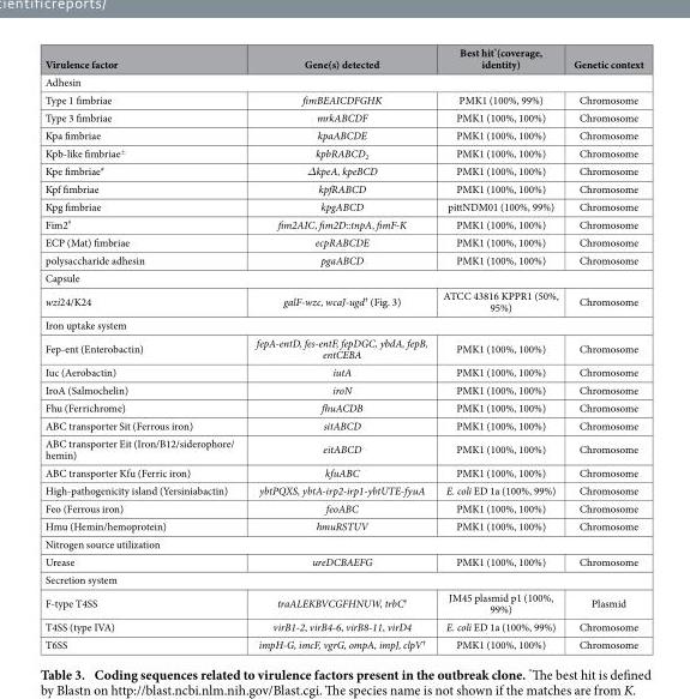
<table><thead><tr><td>Virulence factor</td><td>Gene(s) detected</td><td>Best hit*(coverage, identity)</td><td>Genetic context</td></tr></thead><tbody><tr><td colspan="4">Adhesin</td></tr><tr><td>Type 1 fimbriae</td><td>fimBEAICDFGHK</td><td>PMK1 (100%, 99%)</td><td>Chromosome</td></tr><tr><td>Type 3 fimbriae</td><td>mrkABCDF</td><td>PMK1 (100%, 100%)</td><td>Chromosome</td></tr><tr><td>Kpa fimbriae</td><td>kpaABCDE</td><td>PMK1 (100%, 100%)</td><td>Chromosome</td></tr><tr><td>Kpb-like fimbriae<sup>±</sup></td><td>kpbRABCD<sub>2</sub></td><td>PMK1 (100%, 100%)</td><td>Chromosome</td></tr><tr><td>Kpe fimbriae#</td><td>ΔkpeA, kpeBCD</td><td>PMK1 (100%, 100%)</td><td>Chromosome</td></tr><tr><td>Kpf fimbriae</td><td>kpfRABCD</td><td>PMK1 (100%, 100%)</td><td>Chromosome</td></tr><tr><td>Kpg fimbriae</td><td>kpgABCD</td><td>pittNDM01 (100%, 99%)</td><td>Chromosome</td></tr><tr><td>Fim2ǂ</td><td>fim2AIC, fim2D::tnpA, fimF-K</td><td>PMK1 (100%, 100%)</td><td>Chromosome</td></tr><tr><td>ECP (Mat) fimbriae</td><td>ecpRABCDE</td><td>PMK1 (100%, 100%)</td><td>Chromosome</td></tr><tr><td>polysaccharide adhesin</td><td>pgaABCD</td><td>PMK1 (100%, 100%)</td><td>Chromosome</td></tr><tr><td colspan="4">Capsule</td></tr><tr><td>wzi24/K24</td><td>galF-wzc, wcaJ-ugd<sup>†</sup> (Fig. 3)</td><td>ATCC 43816 KPPR1 (50%, 95%)</td><td>Chromosome</td></tr><tr><td colspan="4">Iron uptake system</td></tr><tr><td>Fep-ent (Enterobactin)</td><td>fepA-entD, fes-entF, fepDGC, ybdA, fepB, entCEBA</td><td>PMK1 (100%, 100%)</td><td>Chromosome</td></tr><tr><td>Iuc (Aerobactin)</td><td>iutA</td><td>PMK1 (100%, 100%)</td><td>Chromosome</td></tr><tr><td>IroA (Salmochelin)</td><td>iroN</td><td>PMK1 (100%, 100%)</td><td>Chromosome</td></tr><tr><td>Fhu (Ferrichrome)</td><td>fhuACDB</td><td>PMK1 (100%, 100%)</td><td>Chromosome</td></tr><tr><td>ABC transporter Sit (Ferrous iron)</td><td>sitABCD</td><td>PMK1 (100%, 100%)</td><td>Chromosome</td></tr><tr><td>ABC transporter Eit (Iron/B12/siderophore/ hemin)</td><td>eitABCD</td><td>PMK1 (100%, 100%)</td><td>Chromosome</td></tr><tr><td>ABC transporter Kfu (Ferric iron)</td><td>kfuABC</td><td>PMK1 (100%, 100%)</td><td>Chromosome</td></tr><tr><td>High-pathogenicity island (Yersiniabactin)</td><td>ybtPQXS, ybtA-irp2-irp1-ybtUTE-fyuA</td><td>E. coli ED 1a (100%, 99%)</td><td>Chromosome</td></tr><tr><td>Feo (Ferrous iron)</td><td>feoABC</td><td>PMK1 (100%, 100%)</td><td>Chromosome</td></tr><tr><td>Hmu (Hemin/hemoprotein)</td><td>hmuRSTUV</td><td>PMK1 (100%, 100%)</td><td>Chromosome</td></tr><tr><td colspan="4">Nitrogen source utilization</td></tr><tr><td>Urease</td><td>ureDCBAEFG</td><td>PMK1 (100%, 100%)</td><td>Chromosome</td></tr><tr><td colspan="4">Secretion system</td></tr><tr><td>F-type T4SS</td><td>traALEKBVCGFHNUW, trbC†</td><td>JM45 plasmid p1 (100%, 99%)</td><td>Plasmid</td></tr><tr><td>T4SS (type IVA)</td><td>virB1-2, virB4-6, virB8-11, virD4</td><td>E. coli ED 1a (100%, 99%)</td><td>Chromosome</td></tr><tr><td>T6SS</td><td>impH-G, imcF, vgrG, ompA, impJ, clpV†</td><td>PMK1 (100%, 100%)</td><td>Chromosome</td></tr></tbody></table>